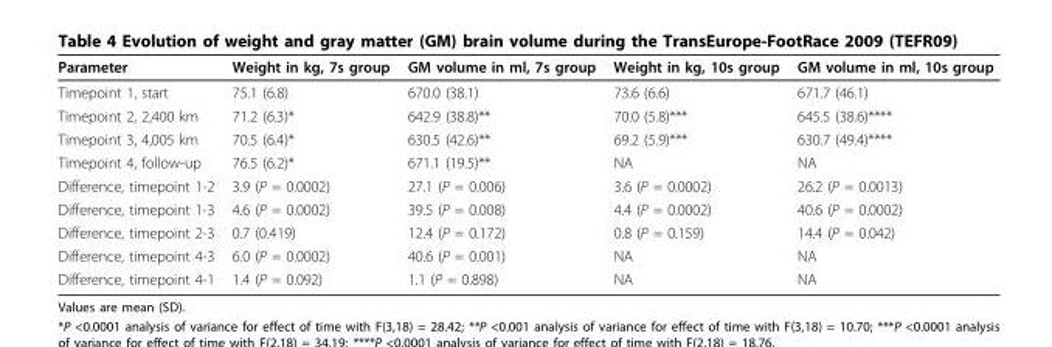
<table><thead><tr><td>Parameter</td><td>Weight in kg, 7s group</td><td>GM volume in ml, 7s group</td><td>Weight in kg, 10s group</td><td>GM volume in ml, 10s group</td></tr></thead><tbody><tr><td>Timepoint 1, start</td><td>75.1 (6.8)</td><td>670.0 (38.1)</td><td>73.6 (6.6)</td><td>671.7 (46.1)</td></tr><tr><td>Timepoint 2, 2,400 km</td><td>71.2 (6.3)*</td><td>642.9 (38.8)**</td><td>70.0 (5.8)***</td><td>645.5 (38.6)****</td></tr><tr><td>Timepoint 3, 4,005 km</td><td>70.5 (6.4)*</td><td>630.5 (42.6)**</td><td>69.2 (5.9)***</td><td>630.7 (49.4)****</td></tr><tr><td>Timepoint 4, follow-up</td><td>76.5 (6.2)*</td><td>671.1 (19.5)**</td><td>NA</td><td>NA</td></tr><tr><td>Difference, timepoint 1-2</td><td>3.9 (P = 0.0002)</td><td>27.1 (P = 0.006)</td><td>3.6 (P = 0.0002)</td><td>26.2 (P = 0.0013)</td></tr><tr><td>Difference, timepoint 1-3</td><td>4.6 (P = 0.0002)</td><td>39.5 (P = 0.008)</td><td>4.4 (P = 0.0002)</td><td>40.6 (P = 0.0002)</td></tr><tr><td>Difference, timepoint 2-3</td><td>0.7 (0.419)</td><td>12.4 (P = 0.172)</td><td>0.8 (P = 0.159)</td><td>14.4 (P = 0.042)</td></tr><tr><td>Difference, timepoint 4-3</td><td>6.0 (P = 0.0002)</td><td>40.6 (P = 0.001)</td><td>NA</td><td>NA</td></tr><tr><td>Difference, timepoint 4-1</td><td>1.4 (P = 0.092)</td><td>1.1 (P = 0.898)</td><td>NA</td><td>NA</td></tr></tbody></table>